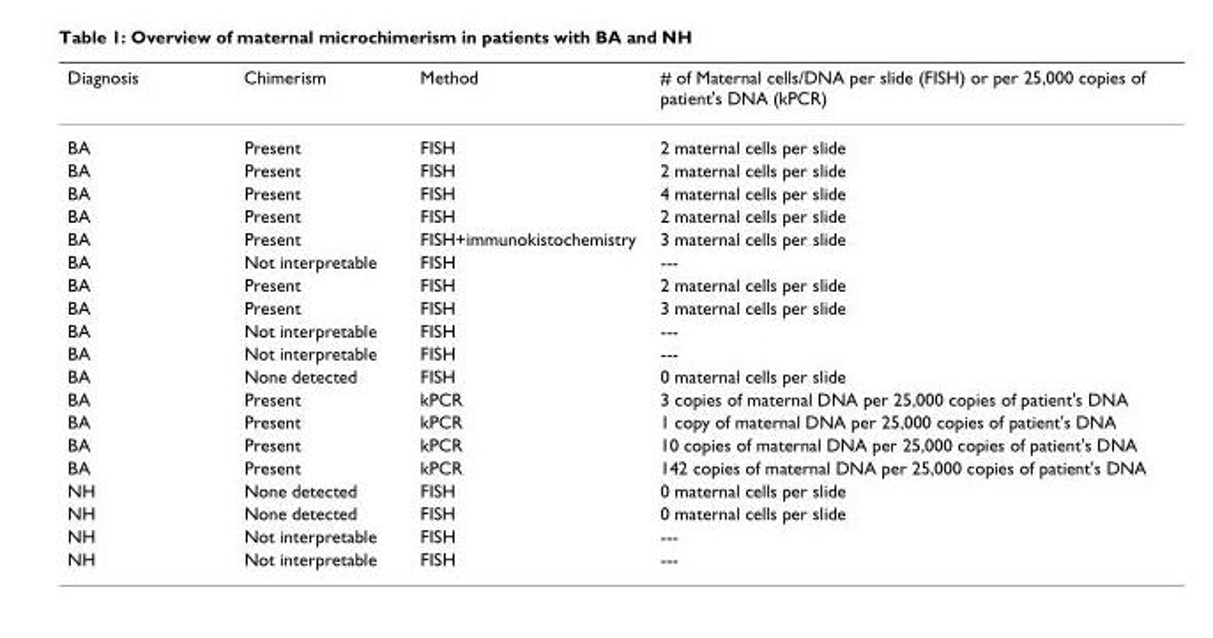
<table><thead><tr><td>Diagnosis</td><td>Chimerism</td><td>Method</td><td># of Maternal cells/DNA per slide (FISH) or per 25,000 copies of patient&#x27;s DNA (kPCR)</td></tr></thead><tbody><tr><td>BA</td><td>Present</td><td>FISH</td><td>2 maternal cells per slide</td></tr><tr><td>BA</td><td>Present</td><td>FISH</td><td>2 maternal cells per slide</td></tr><tr><td>BA</td><td>Present</td><td>FISH</td><td>4 maternal cells per slide</td></tr><tr><td>BA</td><td>Present</td><td>FISH</td><td>2 maternal cells per slide</td></tr><tr><td>BA</td><td>Present</td><td>FISH+immunokistochemistry</td><td>3 maternal cells per slide</td></tr><tr><td>BA</td><td>Not interpretable</td><td>FISH</td><td>---</td></tr><tr><td>BA</td><td>Present</td><td>FISH</td><td>2 maternal cells per slide</td></tr><tr><td>BA</td><td>Present</td><td>FISH</td><td>3 maternal cells per slide</td></tr><tr><td>BA</td><td>Not interpretable</td><td>FISH</td><td>---</td></tr><tr><td>BA</td><td>Not interpretable</td><td>FISH</td><td>---</td></tr><tr><td>BA</td><td>None detected</td><td>FISH</td><td>0 maternal cells per slide</td></tr><tr><td>BA</td><td>Present</td><td>kPCR</td><td>3 copies of maternal DNA per 25,000 copies of patient&#x27;s DNA</td></tr><tr><td>BA</td><td>Present</td><td>kPCR</td><td>1 copy of maternal DNA per 25,000 copies of patient&#x27;s DNA</td></tr><tr><td>BA</td><td>Present</td><td>kPCR</td><td>10 copies of maternal DNA per 25,000 copies of patient&#x27;s DNA</td></tr><tr><td>BA</td><td>Present</td><td>kPCR</td><td>142 copies of maternal DNA per 25,000 copies of patient&#x27;s DNA</td></tr><tr><td>NH</td><td>None detected</td><td>FISH</td><td>0 maternal cells per slide</td></tr><tr><td>NH</td><td>None detected</td><td>FISH</td><td>0 maternal cells per slide</td></tr><tr><td>NH</td><td>Not interpretable</td><td>FISH</td><td>---</td></tr><tr><td>NH</td><td>Not interpretable</td><td>FISH</td><td>---</td></tr></tbody></table>